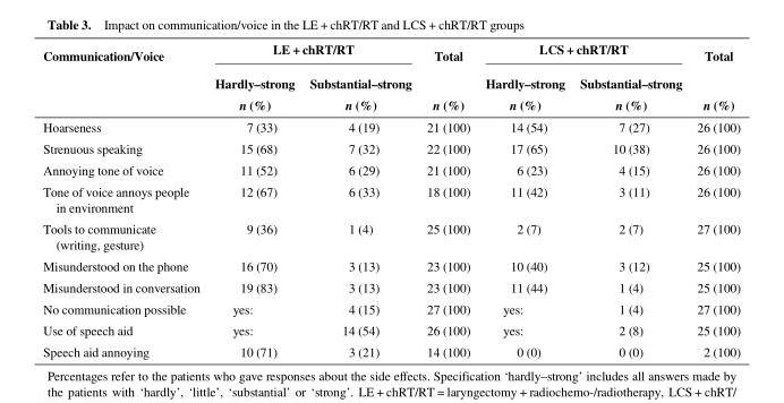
<table><thead><tr><td rowspan="3">Communication/Voice</td><td colspan="2">LE + chRT/RT</td><td rowspan="3">Total n (%)</td><td colspan="2">LCS + chRT/RT</td><td rowspan="3">Total n (%)</td></tr><tr><td rowspan="2">Hardly–strong n (%)</td><td rowspan="2">Substantial–strong n (%)</td><td rowspan="2">Hardly–strong n (%)</td><td rowspan="2">Substantial–strong n (%)</td></tr><tr></tr></thead><tbody><tr><td>Hoarseness</td><td>7 (33)</td><td>4 (19)</td><td>21 (100)</td><td>14 (54)</td><td>7 (27)</td><td>26 (100)</td></tr><tr><td>Strenuous speaking</td><td>15 (68)</td><td>7 (32)</td><td>22 (100)</td><td>17 (65)</td><td>10 (38)</td><td>26 (100)</td></tr><tr><td>Annoying tone of voice</td><td>11 (52)</td><td>6 (29)</td><td>21 (100)</td><td>6 (23)</td><td>4 (15)</td><td>26 (100)</td></tr><tr><td>Tone of voice annoys people in environment</td><td>12 (67)</td><td>6 (33)</td><td>18 (100)</td><td>11 (42)</td><td>3 (11)</td><td>26 (100)</td></tr><tr><td>Tools to communicate (writing, gesture)</td><td>9 (36)</td><td>1 (4)</td><td>25 (100)</td><td>2 (7)</td><td>2 (7)</td><td>27 (100)</td></tr><tr><td>Misunderstood on the phone</td><td>16 (70)</td><td>3 (13)</td><td>23 (100)</td><td>10 (40)</td><td>3 (12)</td><td>25 (100)</td></tr><tr><td>Misunderstood in conversation</td><td>19 (83)</td><td>3 (13)</td><td>23 (100)</td><td>11 (44)</td><td>1 (4)</td><td>25 (100)</td></tr><tr><td>No communication possible</td><td>yes:</td><td>4 (15)</td><td>27 (100)</td><td>yes:</td><td>1 (4)</td><td>27 (100)</td></tr><tr><td>Use of speech aid</td><td>yes:</td><td>14 (54)</td><td>26 (100)</td><td>yes:</td><td>2 (8)</td><td>25 (100)</td></tr><tr><td>Speech aid annoying</td><td>10 (71)</td><td>3 (21)</td><td>14 (100)</td><td>0 (0)</td><td>0 (0)</td><td>2 (100)</td></tr></tbody></table>